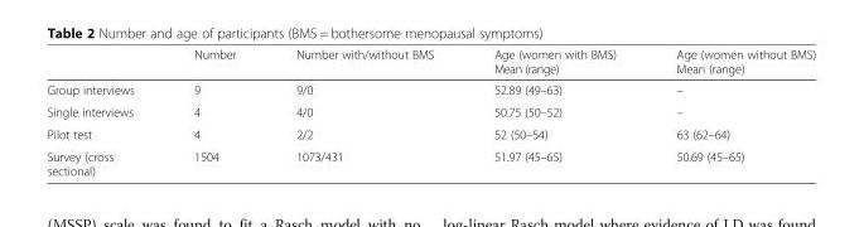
<table><thead><tr><td></td><td>Number</td><td>Number with/without BMS</td><td>Age (women with BMS) Mean (range)</td><td>Age (women without BMS) Mean (range)</td></tr></thead><tbody><tr><td>Group interviews</td><td>9</td><td>9/0</td><td>52.89 (49–63)</td><td>–</td></tr><tr><td>Single interviews</td><td>4</td><td>4/0</td><td>50.75 (50–52)</td><td>–</td></tr><tr><td>Pilot test</td><td>4</td><td>2/2</td><td>52 (50–54)</td><td>63 (62–64)</td></tr><tr><td>Survey (cross sectional)</td><td>1504</td><td>1073/431</td><td>51.97 (45–65)</td><td>50.69 (45–65)</td></tr></tbody></table>